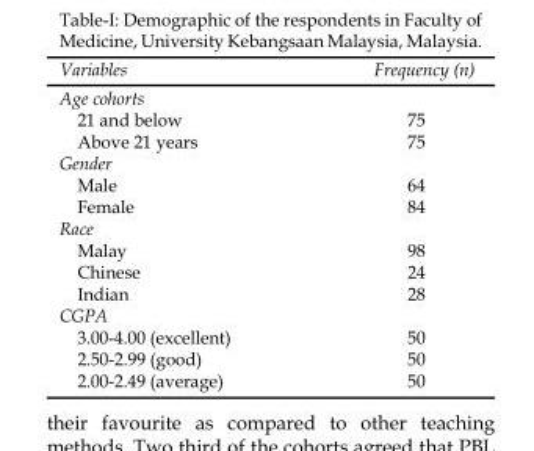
<table><thead><tr><td>Variables</td><td>Frequency (n)</td></tr></thead><tbody><tr><td colspan="2">Age cohorts</td></tr><tr><td>21 and below</td><td>75</td></tr><tr><td>Above 21 years</td><td>75</td></tr><tr><td colspan="2">Gender</td></tr><tr><td>Male</td><td>64</td></tr><tr><td>Female</td><td>84</td></tr><tr><td colspan="2">Race</td></tr><tr><td>Malay</td><td>98</td></tr><tr><td>Chinese</td><td>24</td></tr><tr><td>Indian</td><td>28</td></tr><tr><td colspan="2">CGPA</td></tr><tr><td>3.00-4.00 (excellent)</td><td>50</td></tr><tr><td>2.50-2.99 (good)</td><td>50</td></tr><tr><td>2.00-2.49 (average)</td><td>50</td></tr></tbody></table>